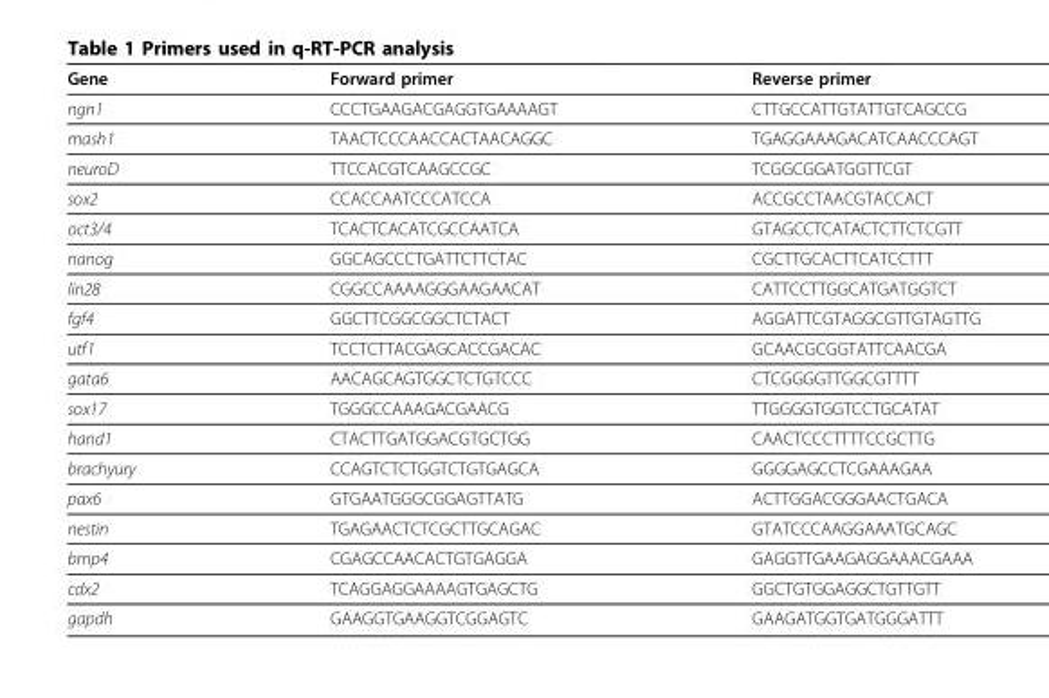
<table><thead><tr><td>Gene</td><td>Forward primer</td><td>Reverse primer</td></tr></thead><tbody><tr><td>ngn1</td><td>CCCTGAAGACGAGGTGAAAAGT</td><td>CTTGCCATTGTATTGTCAGCCG</td></tr><tr><td>mash1</td><td>TAACTCCCAACCACTAACAGGC</td><td>TGAGGAAAGACATCAACCCAGT</td></tr><tr><td>neuroD</td><td>TTCCACGTCAAGCCGC</td><td>TCGGCGGATGGTTCGT</td></tr><tr><td>sox2</td><td>CCACCAATCCCATCCA</td><td>ACCGCCTAACGTACCACT</td></tr><tr><td>oct3/4</td><td>TCACTCACATCGCCAATCA</td><td>GTAGCCTCATACTCTTCTCGTT</td></tr><tr><td>nanog</td><td>GGCAGCCCTGATTCTTCTAC</td><td>CGCTTGCACTTCATCCTTT</td></tr><tr><td>lin28</td><td>CGGCCAAAAGGGAAGAACAT</td><td>CATTCCTTGGCATGATGGTCT</td></tr><tr><td>fgf4</td><td>GGCTTCGGCGGCTCTACT</td><td>AGGATTCGTAGGCGTTGTAGTTG</td></tr><tr><td>utf1</td><td>TCCTCTTACGAGCACCGACAC</td><td>GCAACGCGGTATTCAACGA</td></tr><tr><td>gata6</td><td>AACAGCAGTGGCTCTGTCCC</td><td>CTCGGGGTTGGCGTTTT</td></tr><tr><td>sox17</td><td>TGGGCCAAAGACGAACG</td><td>TTGGGGTGGTCCTGCATAT</td></tr><tr><td>hand1</td><td>CTACTTGATGGACGTGCTGG</td><td>CAACTCCCTTTTCCGCTTG</td></tr><tr><td>brachyury</td><td>CCAGTCTCTGGTCTGTGAGCA</td><td>GGGGAGCCTCGAAAGAA</td></tr><tr><td>pax6</td><td>GTGAATGGGCGGAGTTATG</td><td>ACTTGGACGGGAACTGACA</td></tr><tr><td>nestin</td><td>TGAGAACTCTCGCTTGCAGAC</td><td>GTATCCCAAGGAAATGCAGC</td></tr><tr><td>bmp4</td><td>CGAGCCAACACTGTGAGGA</td><td>GAGGTTGAAGAGGAAACGAAA</td></tr><tr><td>cdx2</td><td>TCAGGAGGAAAAGTGAGCTG</td><td>GGCTGTGGAGGCTGTTGTT</td></tr><tr><td>gapdh</td><td>GAAGGTGAAGGTCGGAGTC</td><td>GAAGATGGTGATGGGATTT</td></tr></tbody></table>